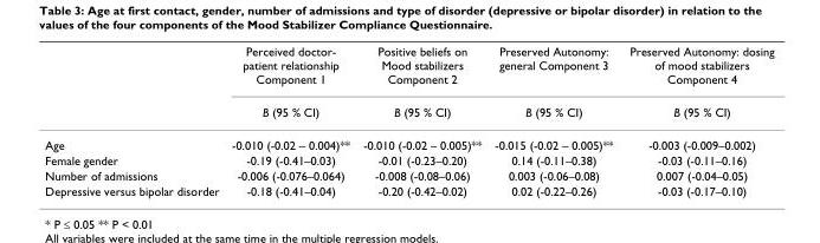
<table><thead><tr><td rowspan="2"></td><td rowspan="2">Perceived doctor- patient relationship Component 1 B (95 % CI)</td><td rowspan="2">Positive beliefs on Mood stabilizers Component 2 B (95 % CI)</td><td rowspan="2">Preserved Autonomy: general Component 3 B (95 % CI)</td><td rowspan="2">Preserved Autonomy: dosing of mood stabilizers Component 4 B (95 % CI)</td></tr><tr></tr></thead><tbody><tr><td>Age</td><td>-0.010 (-0.02 – 0.004)**</td><td>-0.010 (-0.02 – 0.005)**</td><td>-0.015 (-0.02 – 0.005)**</td><td>-0.003 (-0.009–0.002)</td></tr><tr><td>Female gender</td><td>-0.19 (-0.41–0.03)</td><td>-0.01 (-0.23–0.20)</td><td>0.14 (-0.11–0.38)</td><td>-0.03 (-0.11–0.16)</td></tr><tr><td>Number of admissions</td><td>-0.006 (-0.076–0.064)</td><td>-0.008 (-0.08–0.06)</td><td>0.003 (-0.06–0.08)</td><td>0.007 (-0.04–0.05)</td></tr><tr><td>Depressive versus bipolar disorder</td><td>-0.18 (-0.41–0.04)</td><td>-0.20 (-0.42–0.02)</td><td>0.02 (-0.22–0.26)</td><td>-0.03 (-0.17–0.10)</td></tr></tbody></table>